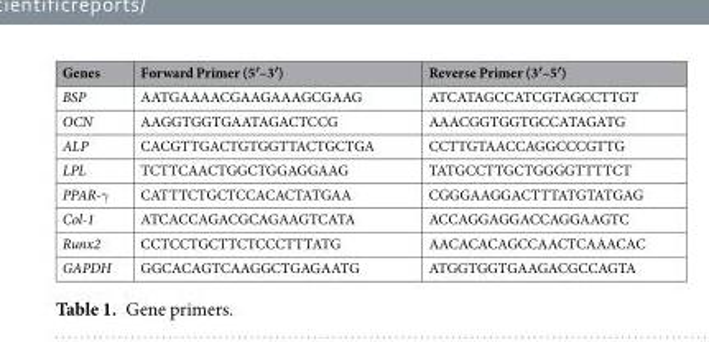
<table><thead><tr><td>Genes</td><td>Forward Primer (5′–3′)</td><td>Reverse Primer (3′–5′)</td></tr></thead><tbody><tr><td>BSP</td><td>AATGAAAACGAAGAAAGCGAAG</td><td>ATCATAGCCATCGTAGCCTTGT</td></tr><tr><td>OCN</td><td>AAGGTGGTGAATAGACTCCG</td><td>AAACGGTGGTGCCATAGATG</td></tr><tr><td>ALP</td><td>CACGTTGACTGTGGTTACTGCTGA</td><td>CCTTGTAACCAGGCCCGTTG</td></tr><tr><td>LPL</td><td>TCTTCAACTGGCTGGAGGAAG</td><td>TATGCCTTGCTGGGGTTTTCT</td></tr><tr><td>PPAR-γ</td><td>CATTTCTGCTCCACACTATGAA</td><td>CGGGAAGGACTTTATGTATGAG</td></tr><tr><td>Col-1</td><td>ATCACCAGACGCAGAAGTCATA</td><td>ACCAGGAGGACCAGGAAGTC</td></tr><tr><td>Runx2</td><td>CCTCCTGCTTCTCCCTTTATG</td><td>AACACACAGCCAACTCAAACAC</td></tr><tr><td>GAPDH</td><td>GGCACAGTCAAGGCTGAGAATG</td><td>ATGGTGGTGAAGACGCCAGTA</td></tr></tbody></table>